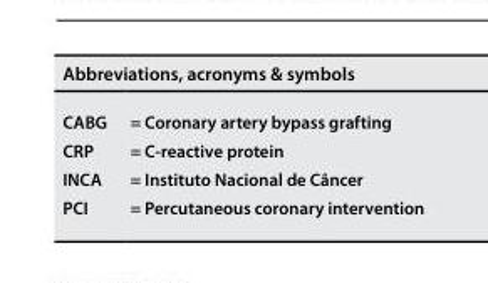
<table><thead><tr><td colspan="2">Abbreviations, acronyms &amp; symbols</td></tr><tr><td>CABG</td><td>= Coronary artery bypass grafting</td></tr></thead><tbody><tr><td>CRP</td><td>= C-reactive protein</td></tr><tr><td>INCA</td><td>= Instituto Nacional de Câncer</td></tr><tr><td>PCI</td><td>= Percutaneous coronary intervention</td></tr></tbody></table>